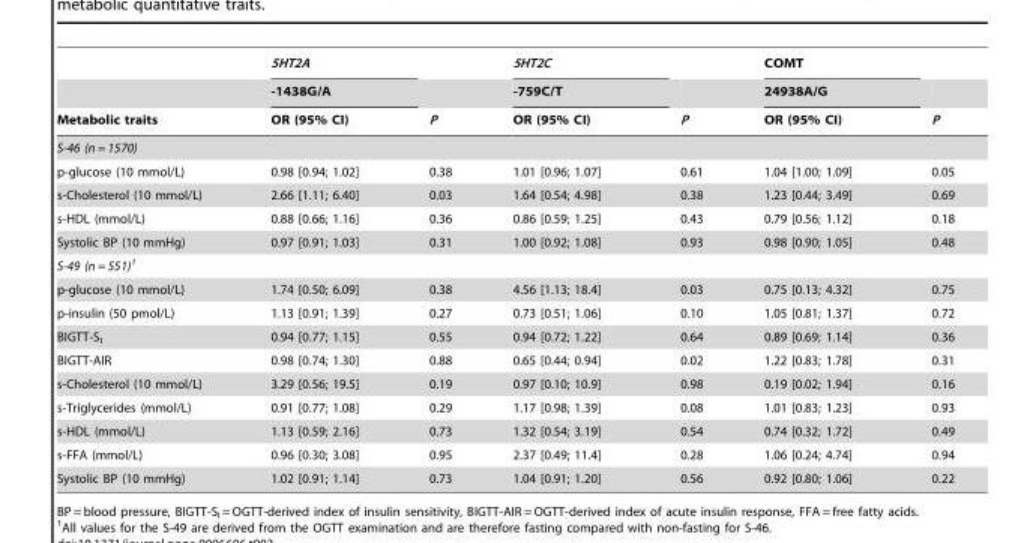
<table><thead><tr><td rowspan="3">Metabolic traits</td><td rowspan="3">5HT2A -1438G/A OR (95% CI)</td><td rowspan="3">P</td><td rowspan="3">5HT2C -759C/T OR (95% CI)</td><td rowspan="3">P</td><td rowspan="3">COMT 24938A/G OR (95% CI)</td><td rowspan="3">P</td></tr><tr></tr><tr></tr></thead><tbody><tr><td colspan="7">S-46 (n = 1570)</td></tr><tr><td>p-glucose (10 mmol/L)</td><td>0.98 [0.94; 1.02]</td><td>0.38</td><td>1.01 [0.96; 1.07]</td><td>0.61</td><td>1.04 [1.00; 1.09]</td><td>0.05</td></tr><tr><td>s-Cholesterol (10 mmol/L)</td><td>2.66 [1.11; 6.40]</td><td>0.03</td><td>1.64 [0.54; 4.98]</td><td>0.38</td><td>1.23 [0.44; 3.49]</td><td>0.69</td></tr><tr><td>s-HDL (mmol/L)</td><td>0.88 [0.66; 1.16]</td><td>0.36</td><td>0.86 [0.59; 1.25]</td><td>0.43</td><td>0.79 [0.56; 1.12]</td><td>0.18</td></tr><tr><td>Systolic BP (10 mmHg)</td><td>0.97 [0.91; 1.03]</td><td>0.31</td><td>1.00 [0.92; 1.08]</td><td>0.93</td><td>0.98 [0.90; 1.05]</td><td>0.48</td></tr><tr><td colspan="7">S-49 (n = 551)1</td></tr><tr><td>p-glucose (10 mmol/L)</td><td>1.74 [0.50; 6.09]</td><td>0.38</td><td>4.56 [1.13; 18.4]</td><td>0.03</td><td>0.75 [0.13; 4.32]</td><td>0.75</td></tr><tr><td>p-insulin (50 pmol/L)</td><td>1.13 [0.91; 1.39]</td><td>0.27</td><td>0.73 [0.51; 1.06]</td><td>0.10</td><td>1.05 [0.81; 1.37]</td><td>0.72</td></tr><tr><td>BIGTT-S<sub>I</sub></td><td>0.94 [0.77; 1.15]</td><td>0.55</td><td>0.94 [0.72; 1.22]</td><td>0.64</td><td>0.89 [0.69; 1.14]</td><td>0.36</td></tr><tr><td>BIGTT-AIR</td><td>0.98 [0.74; 1.30]</td><td>0.88</td><td>0.65 [0.44; 0.94]</td><td>0.02</td><td>1.22 [0.83; 1.78]</td><td>0.31</td></tr><tr><td>s-Cholesterol (10 mmol/L)</td><td>3.29 [0.56; 19.5]</td><td>0.19</td><td>0.97 [0.10; 10.9]</td><td>0.98</td><td>0.19 [0.02; 1.94]</td><td>0.16</td></tr><tr><td>s-Triglycerides (mmol/L)</td><td>0.91 [0.77; 1.08]</td><td>0.29</td><td>1.17 [0.98; 1.39]</td><td>0.08</td><td>1.01 [0.83; 1.23]</td><td>0.93</td></tr><tr><td>s-HDL (mmol/L)</td><td>1.13 [0.59; 2.16]</td><td>0.73</td><td>1.32 [0.54; 3.19]</td><td>0.54</td><td>0.74 [0.32; 1.72]</td><td>0.49</td></tr><tr><td>s-FFA (mmol/L)</td><td>0.96 [0.30; 3.08]</td><td>0.95</td><td>2.37 [0.49; 11.4]</td><td>0.28</td><td>1.06 [0.24; 4.74]</td><td>0.94</td></tr><tr><td>Systolic BP (10 mmHg)</td><td>1.02 [0.91; 1.14]</td><td>0.73</td><td>1.04 [0.91; 1.20]</td><td>0.56</td><td>0.92 [0.80; 1.06]</td><td>0.22</td></tr></tbody></table>